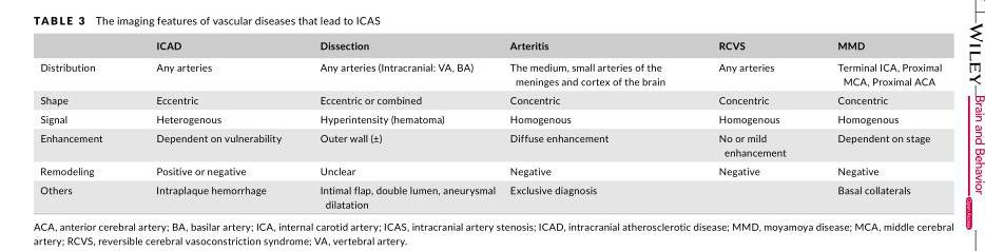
<table><thead><tr><td></td><td>ICAD</td><td>Dissection</td><td>Arteritis</td><td>RCVS</td><td>MMD</td></tr></thead><tbody><tr><td>Distribution</td><td>Any arteries</td><td>Any arteries (Intracranial: VA, BA)</td><td>The medium, small arteries of the meninges and cortex of the brain</td><td>Any arteries</td><td>Terminal ICA, Proximal MCA, Proximal ACA</td></tr><tr><td>Shape</td><td>Eccentric</td><td>Eccentric or combined</td><td>Concentric</td><td>Concentric</td><td>Concentric</td></tr><tr><td>Signal</td><td>Heterogenous</td><td>Hyperintensity (hematoma)</td><td>Homogenous</td><td>Homogenous</td><td>Homogenous</td></tr><tr><td>Enhancement</td><td>Dependent on vulnerability</td><td>Outer wall (±)</td><td>Diffuse enhancement</td><td>No or mild enhancement</td><td>Dependent on stage</td></tr><tr><td>Remodeling</td><td>Positive or negative</td><td>Unclear</td><td>Negative</td><td>Negative</td><td>Negative</td></tr><tr><td>Others</td><td>Intraplaque hemorrhage</td><td>Intimal flap, double lumen, aneurysmal dilatation</td><td>Exclusive diagnosis</td><td></td><td>Basal collaterals</td></tr></tbody></table>